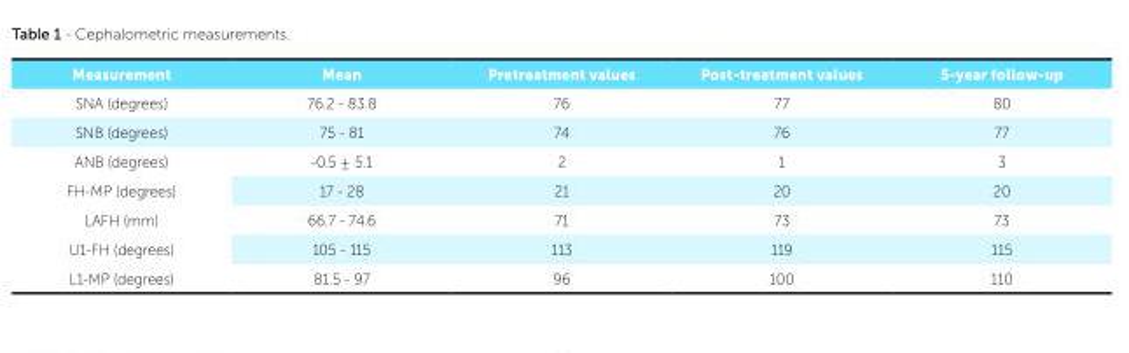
<table><thead><tr><td>Measurement</td><td>Mean</td><td>Pretreatment values</td><td>Post-treatment values</td><td>5-year follow-up</td></tr></thead><tbody><tr><td>SNA (degrees)</td><td>76.2 - 83.8</td><td>76</td><td>77</td><td>80</td></tr><tr><td>SNB (degrees)</td><td>75 - 81</td><td>74</td><td>76</td><td>77</td></tr><tr><td>ANB (degrees)</td><td>-0.5 ± 5.1</td><td>2</td><td>1</td><td>3</td></tr><tr><td>FH-MP (degrees)</td><td>17 - 28</td><td>21</td><td>20</td><td>20</td></tr><tr><td>LAFH (mm)</td><td>66.7 - 74.6</td><td>71</td><td>73</td><td>73</td></tr><tr><td>U1-FH (degrees)</td><td>105 - 115</td><td>113</td><td>119</td><td>115</td></tr><tr><td>L1-MP (degrees)</td><td>81.5 - 97</td><td>96</td><td>100</td><td>110</td></tr></tbody></table>